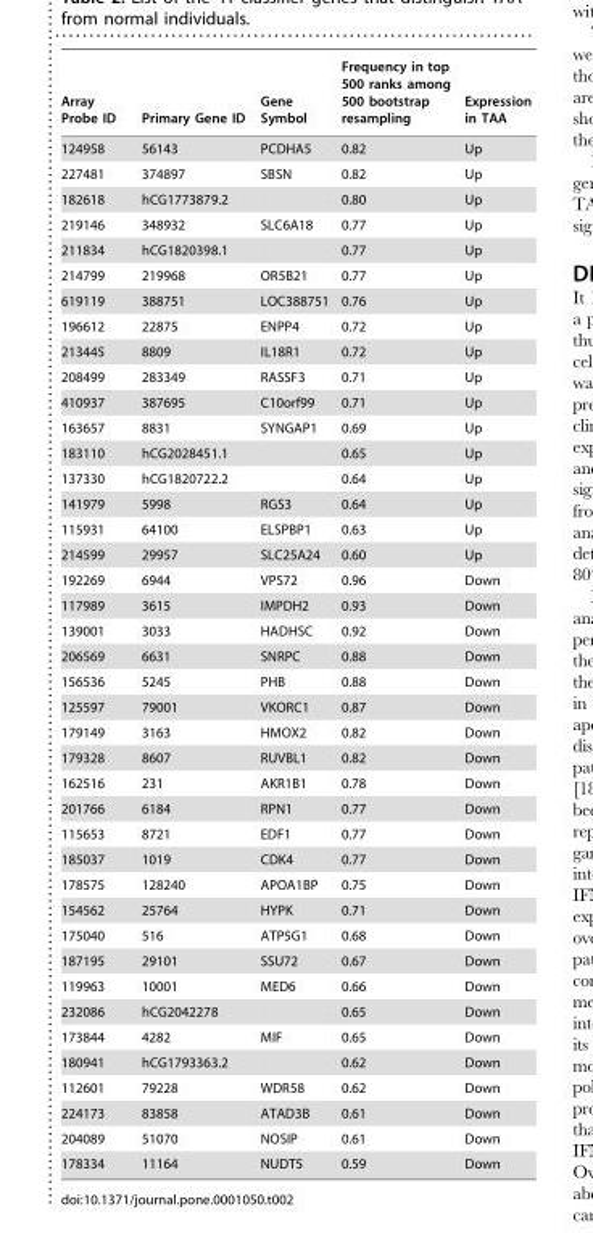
<table><thead><tr><td>Array Probe ID</td><td>Primary Gene ID</td><td>Gene Symbol</td><td>Frequency in top 500 ranks among 500 bootstrap resampling</td><td>Expression in TAA</td></tr></thead><tbody><tr><td>124958</td><td>56143</td><td>PCDHA5</td><td>0.82</td><td>Up</td></tr><tr><td>227481</td><td>374897</td><td>SBSN</td><td>0.82</td><td>Up</td></tr><tr><td>182618</td><td>hCG1773879.2</td><td></td><td>0.80</td><td>Up</td></tr><tr><td>219146</td><td>348932</td><td>SLC6A18</td><td>0.77</td><td>Up</td></tr><tr><td>211834</td><td>hCG1820398.1</td><td></td><td>0.77</td><td>Up</td></tr><tr><td>214799</td><td>219968</td><td>OR5B21</td><td>0.77</td><td>Up</td></tr><tr><td>619119</td><td>388751</td><td>LOC388751</td><td>0.76</td><td>Up</td></tr><tr><td>196612</td><td>22875</td><td>ENPP4</td><td>0.72</td><td>Up</td></tr><tr><td>213445</td><td>8809</td><td>IL18R1</td><td>0.72</td><td>Up</td></tr><tr><td>208499</td><td>283349</td><td>RASSF3</td><td>0.71</td><td>Up</td></tr><tr><td>410937</td><td>387695</td><td>C10orf99</td><td>0.71</td><td>Up</td></tr><tr><td>163657</td><td>8831</td><td>SYNGAP1</td><td>0.69</td><td>Up</td></tr><tr><td>183110</td><td>hCG2028451.1</td><td></td><td>0.65</td><td>Up</td></tr><tr><td>137330</td><td>hCG1820722.2</td><td></td><td>0.64</td><td>Up</td></tr><tr><td>141979</td><td>5998</td><td>RGS3</td><td>0.64</td><td>Up</td></tr><tr><td>115931</td><td>64100</td><td>ELSPBP1</td><td>0.63</td><td>Up</td></tr><tr><td>214599</td><td>29957</td><td>SLC25A24</td><td>0.60</td><td>Up</td></tr><tr><td>192269</td><td>6944</td><td>VPS72</td><td>0.96</td><td>Down</td></tr><tr><td>117989</td><td>3615</td><td>IMPDH2</td><td>0.93</td><td>Down</td></tr><tr><td>139001</td><td>3033</td><td>HADHSC</td><td>0.92</td><td>Down</td></tr><tr><td>206569</td><td>6631</td><td>SNRPC</td><td>0.88</td><td>Down</td></tr><tr><td>156536</td><td>5245</td><td>PHB</td><td>0.88</td><td>Down</td></tr><tr><td>125597</td><td>79001</td><td>VKORC1</td><td>0.87</td><td>Down</td></tr><tr><td>179149</td><td>3163</td><td>HMOX2</td><td>0.82</td><td>Down</td></tr><tr><td>179328</td><td>8607</td><td>RUVBL1</td><td>0.82</td><td>Down</td></tr><tr><td>162516</td><td>231</td><td>AKR1B1</td><td>0.78</td><td>Down</td></tr><tr><td>201766</td><td>6184</td><td>RPN1</td><td>0.77</td><td>Down</td></tr><tr><td>115653</td><td>8721</td><td>EDF1</td><td>0.77</td><td>Down</td></tr><tr><td>185037</td><td>1019</td><td>CDK4</td><td>0.77</td><td>Down</td></tr><tr><td>178575</td><td>128240</td><td>APOA1BP</td><td>0.75</td><td>Down</td></tr><tr><td>154562</td><td>25764</td><td>HYPK</td><td>0.71</td><td>Down</td></tr><tr><td>175040</td><td>516</td><td>ATP5G1</td><td>0.68</td><td>Down</td></tr><tr><td>187195</td><td>29101</td><td>SSU72</td><td>0.67</td><td>Down</td></tr><tr><td>119963</td><td>10001</td><td>MED6</td><td>0.66</td><td>Down</td></tr><tr><td>232086</td><td>hCG2042278</td><td></td><td>0.65</td><td>Down</td></tr><tr><td>173844</td><td>4282</td><td>MIF</td><td>0.65</td><td>Down</td></tr><tr><td>180941</td><td>hCG1793363.2</td><td></td><td>0.62</td><td>Down</td></tr><tr><td>112601</td><td>79228</td><td>WDR58</td><td>0.62</td><td>Down</td></tr><tr><td>224173</td><td>83858</td><td>ATAD3B</td><td>0.61</td><td>Down</td></tr><tr><td>204089</td><td>51070</td><td>NOSIP</td><td>0.61</td><td>Down</td></tr><tr><td>178334</td><td>11164</td><td>NUDT5</td><td>0.59</td><td>Down</td></tr></tbody></table>